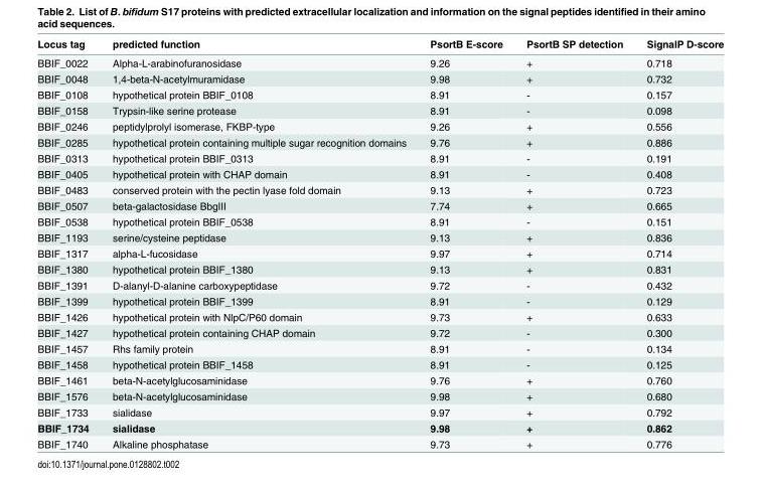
<table><thead><tr><td>Locus tag</td><td>predicted function</td><td>PsortB E-score</td><td>PsortB SP detection</td><td>SignalP D-score</td></tr></thead><tbody><tr><td>BBIF_0022</td><td>Alpha-L-arabinofuranosidase</td><td>9.26</td><td>+</td><td>0.718</td></tr><tr><td>BBIF_0048</td><td>1,4-beta-N-acetylmuramidase</td><td>9.98</td><td>+</td><td>0.732</td></tr><tr><td>BBIF_0108</td><td>hypothetical protein BBIF_0108</td><td>8.91</td><td>-</td><td>0.157</td></tr><tr><td>BBIF_0158</td><td>Trypsin-like serine protease</td><td>8.91</td><td>-</td><td>0.098</td></tr><tr><td>BBIF_0246</td><td>peptidylprolyl isomerase, FKBP-type</td><td>9.26</td><td>+</td><td>0.556</td></tr><tr><td>BBIF_0285</td><td>hypothetical protein containing multiple sugar recognition domains</td><td>9.76</td><td>+</td><td>0.886</td></tr><tr><td>BBIF_0313</td><td>hypothetical protein BBIF_0313</td><td>8.91</td><td>-</td><td>0.191</td></tr><tr><td>BBIF_0405</td><td>hypothetical protein with CHAP domain</td><td>8.91</td><td>-</td><td>0.408</td></tr><tr><td>BBIF_0483</td><td>conserved protein with the pectin lyase fold domain</td><td>9.13</td><td>+</td><td>0.723</td></tr><tr><td>BBIF_0507</td><td>beta-galactosidase BbgIII</td><td>7.74</td><td>+</td><td>0.665</td></tr><tr><td>BBIF_0538</td><td>hypothetical protein BBIF_0538</td><td>8.91</td><td>-</td><td>0.151</td></tr><tr><td>BBIF_1193</td><td>serine/cysteine peptidase</td><td>9.13</td><td>+</td><td>0.836</td></tr><tr><td>BBIF_1317</td><td>alpha-L-fucosidase</td><td>9.97</td><td>+</td><td>0.714</td></tr><tr><td>BBIF_1380</td><td>hypothetical protein BBIF_1380</td><td>9.13</td><td>+</td><td>0.831</td></tr><tr><td>BBIF_1391</td><td>D-alanyl-D-alanine carboxypeptidase</td><td>9.72</td><td>-</td><td>0.432</td></tr><tr><td>BBIF_1399</td><td>hypothetical protein BBIF_1399</td><td>8.91</td><td>-</td><td>0.129</td></tr><tr><td>BBIF_1426</td><td>hypothetical protein with NlpC/P60 domain</td><td>9.73</td><td>+</td><td>0.633</td></tr><tr><td>BBIF_1427</td><td>hypothetical protein containing CHAP domain</td><td>9.72</td><td>-</td><td>0.300</td></tr><tr><td>BBIF_1457</td><td>Rhs family protein</td><td>8.91</td><td>-</td><td>0.134</td></tr><tr><td>BBIF_1458</td><td>hypothetical protein BBIF_1458</td><td>8.91</td><td>-</td><td>0.125</td></tr><tr><td>BBIF_1461</td><td>beta-N-acetylglucosaminidase</td><td>9.76</td><td>+</td><td>0.760</td></tr><tr><td>BBIF_1576</td><td>beta-N-acetylglucosaminidase</td><td>9.98</td><td>+</td><td>0.680</td></tr><tr><td>BBIF_1733</td><td>sialidase</td><td>9.97</td><td>+</td><td>0.792</td></tr><tr><td>BBIF_1734</td><td>sialidase</td><td>9.98</td><td>+</td><td>0.862</td></tr><tr><td>BBIF_1740</td><td>Alkaline phosphatase</td><td>9.73</td><td>+</td><td>0.776</td></tr></tbody></table>